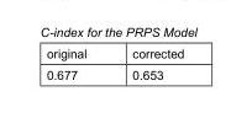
<table><tbody><tr><td>original</td><td>corrected</td></tr><tr><td>0.677</td><td>0.653</td></tr></tbody></table>